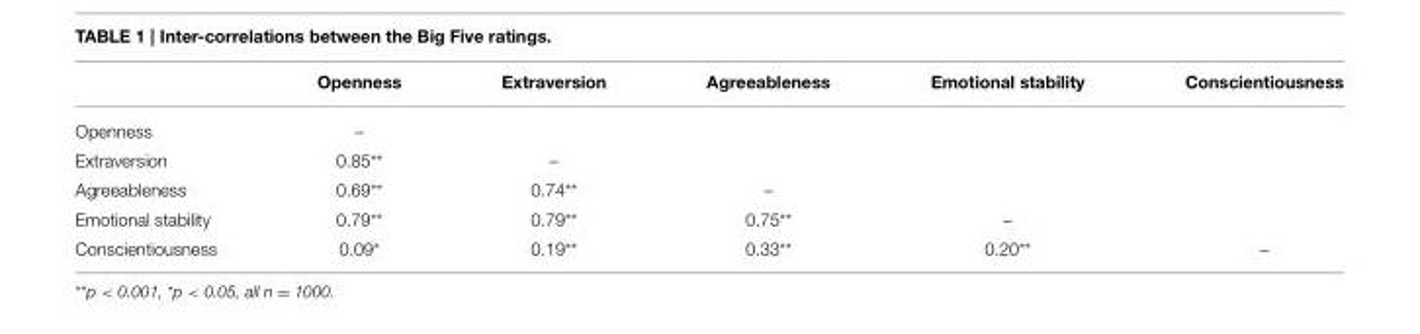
<table><thead><tr><td></td><td>Openness</td><td>Extraversion</td><td>Agreeableness</td><td>Emotional stability</td><td>Conscientiousness</td></tr></thead><tbody><tr><td>Openness</td><td>–</td><td></td><td></td><td></td><td></td></tr><tr><td>Extraversion</td><td>0.85**</td><td>–</td><td></td><td></td><td></td></tr><tr><td>Agreeableness</td><td>0.69**</td><td>0.74**</td><td>–</td><td></td><td></td></tr><tr><td>Emotional stability</td><td>0.79**</td><td>0.79**</td><td>0.75**</td><td>–</td><td></td></tr><tr><td>Conscientiousness</td><td>0.09*</td><td>0.19**</td><td>0.33**</td><td>0.20**</td><td>–</td></tr></tbody></table>